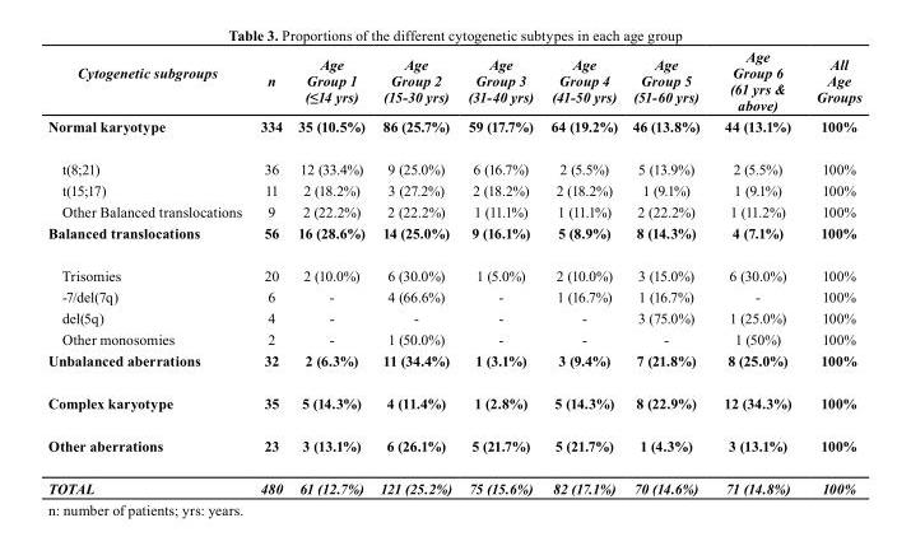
<table><thead><tr><td>Cytogenetic subgroups</td><td>n</td><td>Age Group 1 (≤14 yrs)</td><td>Age Group 2 (15-30 yrs)</td><td>Age Group 3 (31-40 yrs)</td><td>Age Group 4 (41-50 yrs)</td><td>Age Group 5 (51-60 yrs)</td><td>Age Group 6 (61 yrs &amp; above)</td><td>All Age Groups</td></tr></thead><tbody><tr><td>Normal karyotype</td><td>334</td><td>35 (10.5%)</td><td>86 (25.7%)</td><td>59 (17.7%)</td><td>64 (19.2%)</td><td>46 (13.8%)</td><td>44 (13.1%)</td><td>100%</td></tr><tr><td>t(8;21)</td><td>36</td><td>12 (33.4%)</td><td>9 (25.0%)</td><td>6 (16.7%)</td><td>2 (5.5%)</td><td>5 (13.9%)</td><td>2 (5.5%)</td><td>100%</td></tr><tr><td>t(15;17)</td><td>11</td><td>2 (18.2%)</td><td>3 (27.2%)</td><td>2 (18.2%)</td><td>2 (18.2%)</td><td>1 (9.1%)</td><td>1 (9.1%)</td><td>100%</td></tr><tr><td>Other Balanced translocations</td><td>9</td><td>2 (22.2%)</td><td>2 (22.2%)</td><td>1 (11.1%)</td><td>1 (11.1%)</td><td>2 (22.2%)</td><td>1 (11.2%)</td><td>100%</td></tr><tr><td>balanced translocations</td><td>56</td><td>16 (28.6%)</td><td>14 (25.0%)</td><td>9 (16.1%)</td><td>5 (8.9%)</td><td>8 (14.3%)</td><td>4 (7.1%)</td><td>100%</td></tr><tr><td>Trisomies</td><td>20</td><td>2 (10.0%)</td><td>6 (30.0%)</td><td>1 (5.0%)</td><td>2 (10.0%)</td><td>3 (15.0%)</td><td>6 (30.0%)</td><td>100%</td></tr><tr><td>-7/del(7q)</td><td>6</td><td>-</td><td>4 (66.6%)</td><td>-</td><td>1 (16.7%)</td><td>1 (16.7%)</td><td>-</td><td>100%</td></tr><tr><td>del(5q)</td><td>4</td><td>-</td><td>-</td><td>-</td><td>-</td><td>3 (75.0%)</td><td>1 (25.0%)</td><td>100%</td></tr><tr><td>Other monosomies</td><td>2</td><td>-</td><td>1 (50.0%)</td><td>-</td><td>-</td><td>-</td><td>1 (50%)</td><td>100%</td></tr><tr><td>Unbalanced aberrations</td><td>32</td><td>2 (6.3%)</td><td>11 (34.4%)</td><td>1 (3.1%)</td><td>3 (9.4%)</td><td>7 (21.8%)</td><td>8 (25.0%)</td><td>100%</td></tr><tr><td>complex karyotype</td><td>35</td><td>5 (14.3%)</td><td>4 (11.4%)</td><td>1 (2.8%)</td><td>5 (14.3%)</td><td>8 (22.9%)</td><td>12 (34.3%)</td><td>100%</td></tr><tr><td>Other aberrations</td><td>23</td><td>3 (13.1%)</td><td>6 (26.1%)</td><td>5 (21.7%)</td><td>5 (21.7%)</td><td>1 (4.3%)</td><td>3 (13.1%)</td><td>100%</td></tr><tr><td>TOTAL</td><td>480</td><td>61 (12.7%)</td><td>121 (25.2%)</td><td>75 (15.6%)</td><td>82 (17.1%)</td><td>70 (14.6%)</td><td>71 (14.8%)</td><td>100%</td></tr></tbody></table>